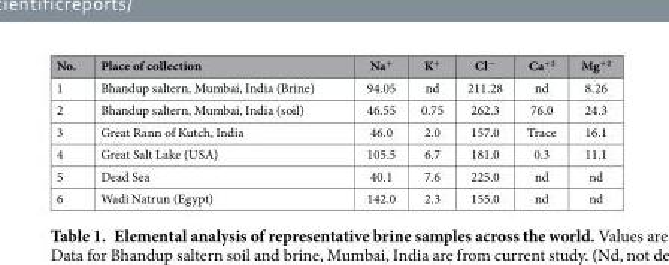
<table><thead><tr><td>No.</td><td>Place of collection</td><td>Na<sup>+</sup></td><td>K<sup>+</sup></td><td>Cl<sup>−</sup></td><td>Ca<sup>+2</sup></td><td>Mg<sup>+2</sup></td></tr></thead><tbody><tr><td>1</td><td>Bhandup saltern, Mumbai, India (Brine)</td><td>94.05</td><td>nd</td><td>211.28</td><td>nd</td><td>8.26</td></tr><tr><td>2</td><td>Bhandup saltern, Mumbai, India (soil)</td><td>46.55</td><td>0.75</td><td>262.3</td><td>76.0</td><td>24.3</td></tr><tr><td>3</td><td>Great Rann of Kutch, India</td><td>46.0</td><td>2.0</td><td>157.0</td><td>Trace</td><td>16.1</td></tr><tr><td>4</td><td>Great Salt Lake (USA)</td><td>105.5</td><td>6.7</td><td>181.0</td><td>0.3</td><td>11.1</td></tr><tr><td>5</td><td>Dead Sea</td><td>40.1</td><td>7.6</td><td>225.0</td><td>nd</td><td>nd</td></tr><tr><td>6</td><td>Wadi Natrun (Egypt)</td><td>142.0</td><td>2.3</td><td>155.0</td><td>nd</td><td>nd</td></tr></tbody></table>